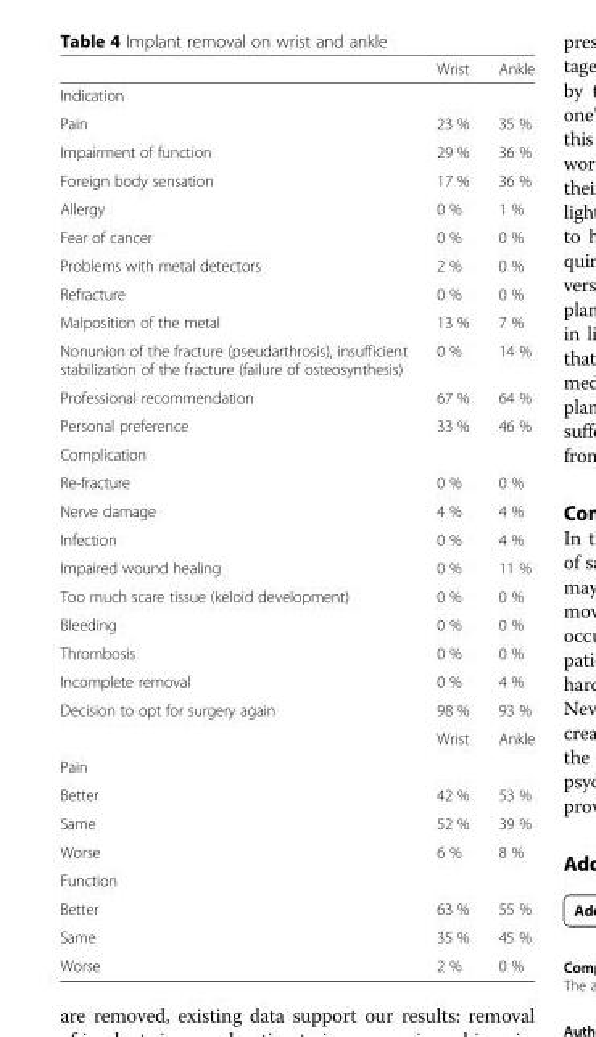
<table><thead><tr><td></td><td>Wrist</td><td>Ankle</td></tr></thead><tbody><tr><td colspan="3">Indication</td></tr><tr><td>Pain</td><td>23 %</td><td>35 %</td></tr><tr><td>Impairment of function</td><td>29 %</td><td>36 %</td></tr><tr><td>Foreign body sensation</td><td>17 %</td><td>36 %</td></tr><tr><td>Allergy</td><td>0 %</td><td>1 %</td></tr><tr><td>Fear of cancer</td><td>0 %</td><td>0 %</td></tr><tr><td>Problems with metal detectors</td><td>2 %</td><td>0 %</td></tr><tr><td>Refracture</td><td>0 %</td><td>0 %</td></tr><tr><td>Malposition of the metal</td><td>13 %</td><td>7 %</td></tr><tr><td>Nonunion of the fracture (pseudarthrosis), insufficient stabilization of the fracture (failure of osteosynthesis)</td><td>0 %</td><td>14 %</td></tr><tr><td>Professional recommendation</td><td>67 %</td><td>64 %</td></tr><tr><td>Personal preference</td><td>33 %</td><td>46 %</td></tr><tr><td colspan="3">Complication</td></tr><tr><td>Re-fracture</td><td>0 %</td><td>0 %</td></tr><tr><td>Nerve damage</td><td>4 %</td><td>4 %</td></tr><tr><td>Infection</td><td>0 %</td><td>4 %</td></tr><tr><td>Impaired wound healing</td><td>0 %</td><td>11 %</td></tr><tr><td>Too much scare tissue (keloid development)</td><td>0 %</td><td>0 %</td></tr><tr><td>Bleeding</td><td>0 %</td><td>0 %</td></tr><tr><td>Thrombosis</td><td>0 %</td><td>0 %</td></tr><tr><td>Incomplete removal</td><td>0 %</td><td>4 %</td></tr><tr><td rowspan="2">Decision to opt for surgery again</td><td>98 %</td><td>93 %</td></tr><tr><td>Wrist</td><td>Ankle</td></tr><tr><td colspan="3">Pain</td></tr><tr><td>Better</td><td>42 %</td><td>53 %</td></tr><tr><td>Same</td><td>52 %</td><td>39 %</td></tr><tr><td>Worse</td><td>6 %</td><td>8 %</td></tr><tr><td colspan="3">Function</td></tr><tr><td>Better</td><td>63 %</td><td>55 %</td></tr><tr><td>Same</td><td>35 %</td><td>45 %</td></tr><tr><td>Worse</td><td>2 %</td><td>0 %</td></tr></tbody></table>